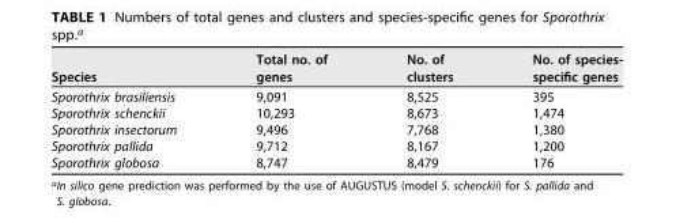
<table><thead><tr><td>Species</td><td>Total no. of genes</td><td>No. of clusters</td><td>No. of species- specific genes</td></tr></thead><tbody><tr><td>Sporothrix brasiliensis</td><td>9,091</td><td>8,525</td><td>395</td></tr><tr><td>Sporothrix schenckii</td><td>10,293</td><td>8,673</td><td>1,474</td></tr><tr><td>Sporothrix insectorum</td><td>9,496</td><td>7,768</td><td>1,380</td></tr><tr><td>Sporothrix pallida</td><td>9,712</td><td>8,167</td><td>1,200</td></tr><tr><td>Sporothrix globosa</td><td>8,747</td><td>8,479</td><td>176</td></tr></tbody></table>